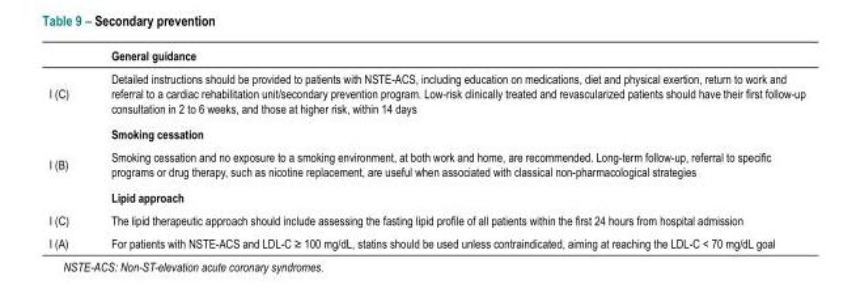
<table><thead><tr><td></td><td>General guidance</td></tr></thead><tbody><tr><td rowspan="2">I (C)</td><td>Detailed instructions should be provided to patients with NSTE-ACS, including education on medications, diet and physical exertion, return to work and referral to a cardiac rehabilitation unit/secondary prevention program. Low-risk clinically treated and revascularized patients should have their first follow-up consultation in 2 to 6 weeks, and those at higher risk, within 14 days</td></tr><tr><td>Smoking cessation</td></tr><tr><td rowspan="2">I (B)</td><td>Smoking cessation and no exposure to a smoking environment, at both work and home, are recommended. Long-term follow-up, referral to specific programs or drug therapy, such as nicotine replacement, are useful when associated with classical non-pharmacological strategies</td></tr><tr><td>Lipid approach</td></tr><tr><td>I (C)</td><td>The lipid therapeutic approach should include assessing the fasting lipid profile of all patients within the first 24 hours from hospital admission</td></tr><tr><td>I (A)</td><td>For patients with NSTE-ACS and LDL-C ≥ 100 mg/dL, statins should be used unless contraindicated, aiming at reaching the LDL-C &lt; 70 mg/dL goal</td></tr></tbody></table>